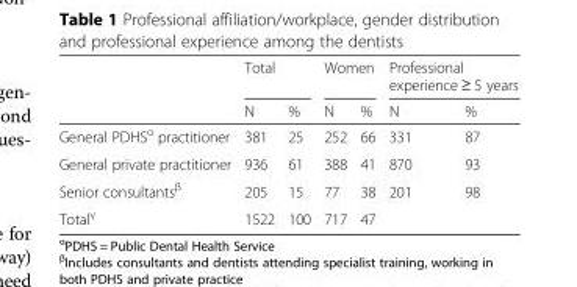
<table><thead><tr><td rowspan="2"></td><td colspan="2">Total</td><td colspan="2">Women</td><td colspan="2">Professional experience ≥ 5 years</td></tr><tr><td>N</td><td>%</td><td>N</td><td>%</td><td>N</td><td>%</td></tr></thead><tbody><tr><td>General PDHS<sup>α</sup> practitioner</td><td>381</td><td>25</td><td>252</td><td>66</td><td>331</td><td>87</td></tr><tr><td>General private practitioner</td><td>936</td><td>61</td><td>388</td><td>41</td><td>870</td><td>93</td></tr><tr><td>Senior consultants<sup>β</sup></td><td>205</td><td>15</td><td>77</td><td>38</td><td>201</td><td>98</td></tr><tr><td>Total<sup>γ</sup></td><td>1522</td><td>100</td><td>717</td><td>47</td><td></td><td></td></tr></tbody></table>